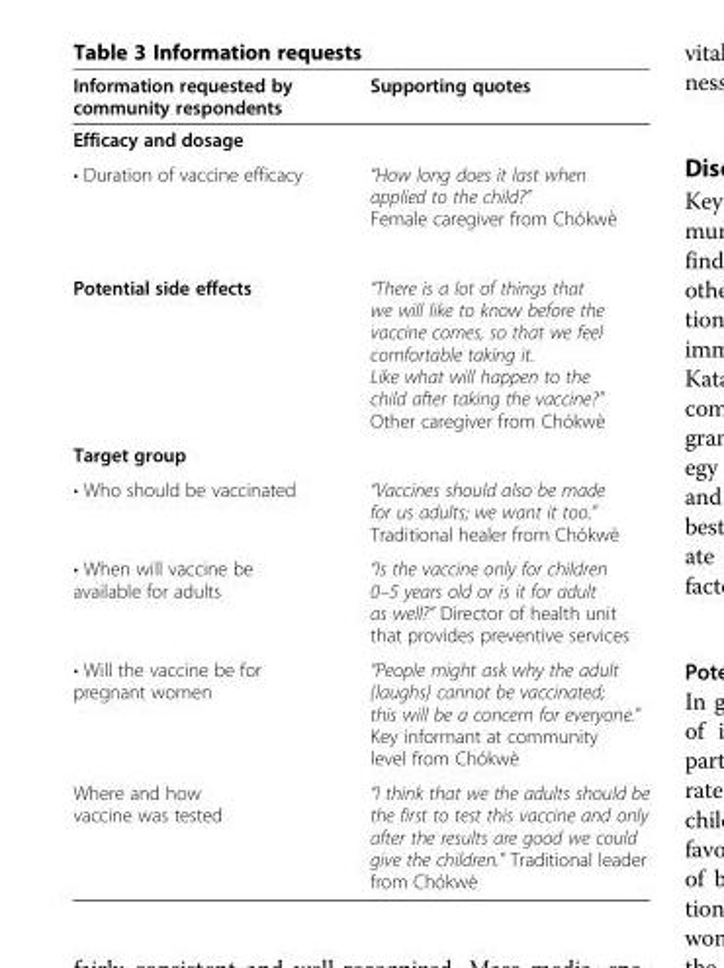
<table><thead><tr><td>Information requested by community respondents</td><td>Supporting quotes</td></tr></thead><tbody><tr><td colspan="2">Efficacy and dosage</td></tr><tr><td>• Duration of vaccine efficacy</td><td>“How long does it last when applied to the child?” Female caregiver from Chókwè</td></tr><tr><td>Potential side effects</td><td>“There is a lot of things that we will like to know before the vaccine comes, so that we feel comfortable taking it. Like what will happen to the child after taking the vaccine?” Other caregiver from Chókwè</td></tr><tr><td colspan="2">Target group</td></tr><tr><td>• Who should be vaccinated</td><td>“Vaccines should also be made for us adults; we want it too.” Traditional healer from Chókwè</td></tr><tr><td>• When will vaccine be available for adults</td><td>“Is the vaccine only for children 0–5 years old or is it for adult as well?” Director of health unit that provides preventive services</td></tr><tr><td>• Will the vaccine be for pregnant women</td><td>“People might ask why the adult {laughs} cannot be vaccinated; this will be a concern for everyone.” Key informant at community level from Chókwè</td></tr><tr><td>Where and how vaccine was tested</td><td>“I think that we the adults should be the first to test this vaccine and only after the results are good we could give the children.” Traditional leader from Chókwè</td></tr></tbody></table>